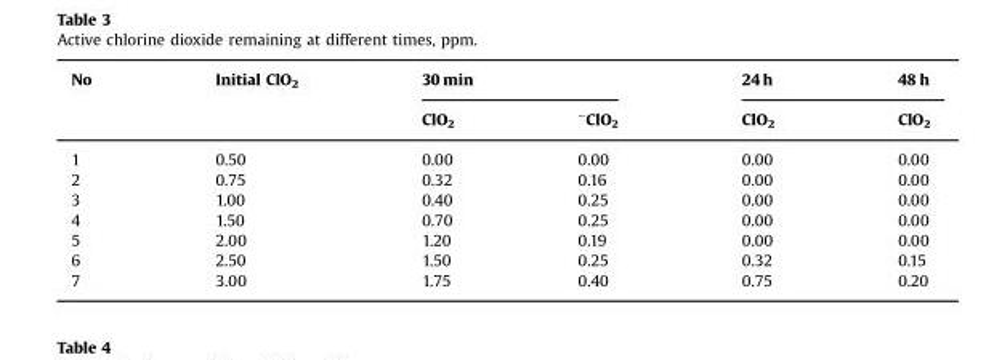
<table><thead><tr><td rowspan="2">No</td><td rowspan="2">Initial ClO<sub>2</sub></td><td colspan="2">30 min</td><td rowspan="2">24 h ClO<sub>2</sub></td><td rowspan="2">48 h ClO<sub>2</sub></td></tr><tr><td>ClO<sub>2</sub></td><td><sup>−</sup>ClO<sub>2</sub></td></tr></thead><tbody><tr><td>1</td><td>0.50</td><td>0.00</td><td>0.00</td><td>0.00</td><td>0.00</td></tr><tr><td>2</td><td>0.75</td><td>0.32</td><td>0.16</td><td>0.00</td><td>0.00</td></tr><tr><td>3</td><td>1.00</td><td>0.40</td><td>0.25</td><td>0.00</td><td>0.00</td></tr><tr><td>4</td><td>1.50</td><td>0.70</td><td>0.25</td><td>0.00</td><td>0.00</td></tr><tr><td>5</td><td>2.00</td><td>1.20</td><td>0.19</td><td>0.00</td><td>0.00</td></tr><tr><td>6</td><td>2.50</td><td>1.50</td><td>0.25</td><td>0.32</td><td>0.15</td></tr><tr><td>7</td><td>3.00</td><td>1.75</td><td>0.40</td><td>0.75</td><td>0.20</td></tr></tbody></table>